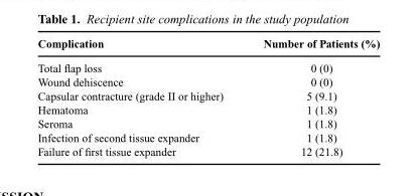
<table><thead><tr><td>Complication</td><td>Number of Patients (%)</td></tr></thead><tbody><tr><td>Total flap loss</td><td>0 (0)</td></tr><tr><td>Wound dehiscence</td><td>0 (0)</td></tr><tr><td>Capsular contracture (grade II or higher)</td><td>5 (9.1)</td></tr><tr><td>Hematoma</td><td>1 (1.8)</td></tr><tr><td>Seroma</td><td>1 (1.8)</td></tr><tr><td>Infection of second tissue expander</td><td>1 (1.8)</td></tr><tr><td>Failure of first tissue expander</td><td>12 (21.8)</td></tr></tbody></table>